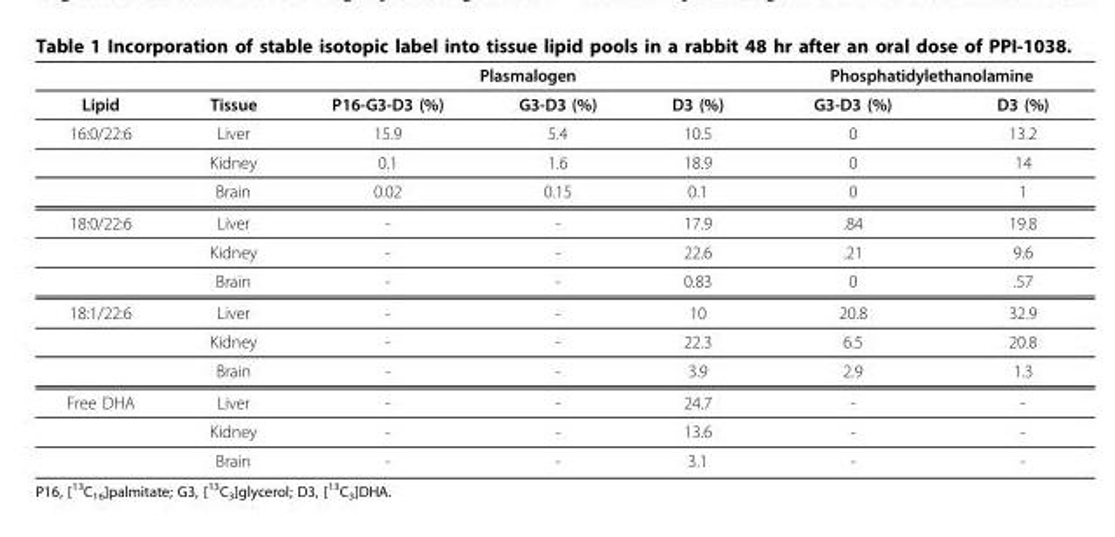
<table><thead><tr><td rowspan="2">Lipid</td><td rowspan="2">Tissue</td><td colspan="3">Plasmalogen</td><td colspan="2">Phosphatidylethanolamine</td></tr><tr><td>P16-G3-D3 (%)</td><td>G3-D3 (%)</td><td>D3 (%)</td><td>G3-D3 (%)</td><td>D3 (%)</td></tr></thead><tbody><tr><td rowspan="3">16:0/22:6</td><td>Liver</td><td>15.9</td><td>5.4</td><td>10.5</td><td>0</td><td>13.2</td></tr><tr><td>Kidney</td><td>0.1</td><td>1.6</td><td>18.9</td><td>0</td><td>14</td></tr><tr><td>Brain</td><td>0.02</td><td>0.15</td><td>0.1</td><td>0</td><td>1</td></tr><tr><td rowspan="3">18:0/22:6</td><td>Liver</td><td>-</td><td>-</td><td>17.9</td><td>.84</td><td>19.8</td></tr><tr><td>Kidney</td><td>-</td><td>-</td><td>22.6</td><td>.21</td><td>9.6</td></tr><tr><td>Brain</td><td>-</td><td>-</td><td>0.83</td><td>0</td><td>.57</td></tr><tr><td rowspan="3">18:1/22:6</td><td>Liver</td><td>-</td><td>-</td><td>10</td><td>20.8</td><td>32.9</td></tr><tr><td>Kidney</td><td>-</td><td>-</td><td>22.3</td><td>6.5</td><td>20.8</td></tr><tr><td>Brain</td><td>-</td><td>-</td><td>3.9</td><td>2.9</td><td>1.3</td></tr><tr><td rowspan="3">Free DHA</td><td>Liver</td><td>-</td><td>-</td><td>24.7</td><td>-</td><td>-</td></tr><tr><td>Kidney</td><td>-</td><td>-</td><td>13.6</td><td>-</td><td>-</td></tr><tr><td>Brain</td><td>-</td><td>-</td><td>3.1</td><td>-</td><td>-</td></tr></tbody></table>